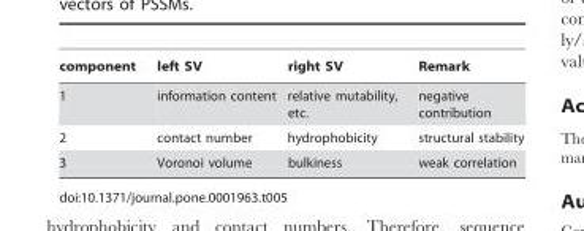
<table><thead><tr><td>component</td><td>left SV</td><td>right SV</td><td>Remark</td></tr></thead><tbody><tr><td>1</td><td>information content</td><td>relative mutability, etc.</td><td>negative contribution</td></tr><tr><td>2</td><td>contact number</td><td>hydrophobicity</td><td>structural stability</td></tr><tr><td>3</td><td>Voronoi volume</td><td>bulkiness</td><td>weak correlation</td></tr></tbody></table>